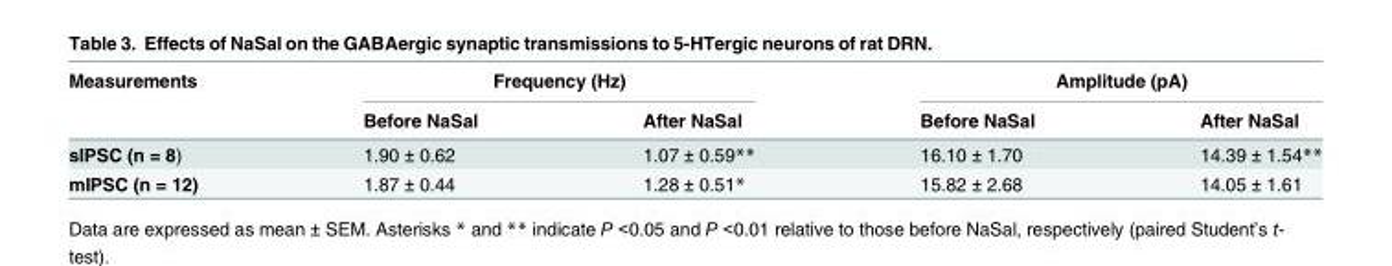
<table><thead><tr><td rowspan="2">Measurements</td><td colspan="2">Frequency (Hz)</td><td colspan="2">Amplitude (pA)</td></tr><tr><td>Before NaSal</td><td>After NaSal</td><td>Before NaSal</td><td>After NaSal</td></tr></thead><tbody><tr><td>sIPSC (n = 8)</td><td>1.90 ± 0.62</td><td>1.07 ± 0.59**</td><td>16.10 ± 1.70</td><td>14.39 ± 1.54**</td></tr><tr><td>mIPSC (n = 12)</td><td>1.87 ± 0.44</td><td>1.28 ± 0.51*</td><td>15.82 ± 2.68</td><td>14.05 ± 1.61</td></tr></tbody></table>